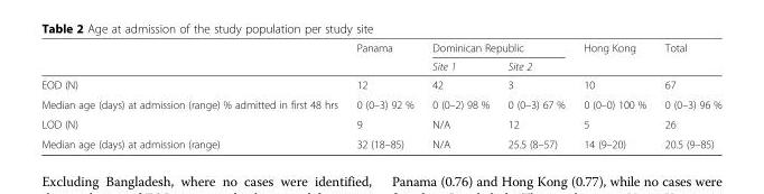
<table><thead><tr><td rowspan="2"></td><td rowspan="2">Panama</td><td colspan="2">Dominican Republic</td><td rowspan="2">Hong Kong</td><td rowspan="2">Total</td></tr><tr><td>Site 1</td><td>Site 2</td></tr></thead><tbody><tr><td>EOD (N)</td><td>12</td><td>42</td><td>3</td><td>10</td><td>67</td></tr><tr><td>Median age (days) at admission (range) % admitted in first 48 hrs</td><td>0 (0–3) 92 %</td><td>0 (0–2) 98 %</td><td>0 (0–3) 67 %</td><td>0 (0–0) 100 %</td><td>0 (0–3) 96 %</td></tr><tr><td>LOD (N)</td><td>9</td><td>N/A</td><td>12</td><td>5</td><td>26</td></tr><tr><td>Median age (days) at admission (range)</td><td>32 (18–85)</td><td>N/A</td><td>25.5 (8–57)</td><td>14 (9–20)</td><td>20.5 (9–85)</td></tr></tbody></table>